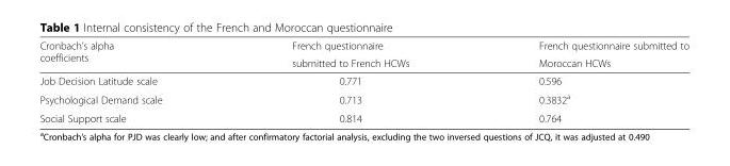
<table><thead><tr><td rowspan="2">Cronbach’s alpha coefficients</td><td rowspan="2">French questionnaire submitted to French HCWs</td><td rowspan="2">French questionnaire submitted to Moroccan HCWs</td></tr><tr></tr></thead><tbody><tr><td>Job Decision Latitude scale</td><td>0.771</td><td>0.596</td></tr><tr><td>Psychological Demand scale</td><td>0.713</td><td>0.3832<sup>a</sup></td></tr><tr><td>Social Support scale</td><td>0.814</td><td>0.764</td></tr></tbody></table>